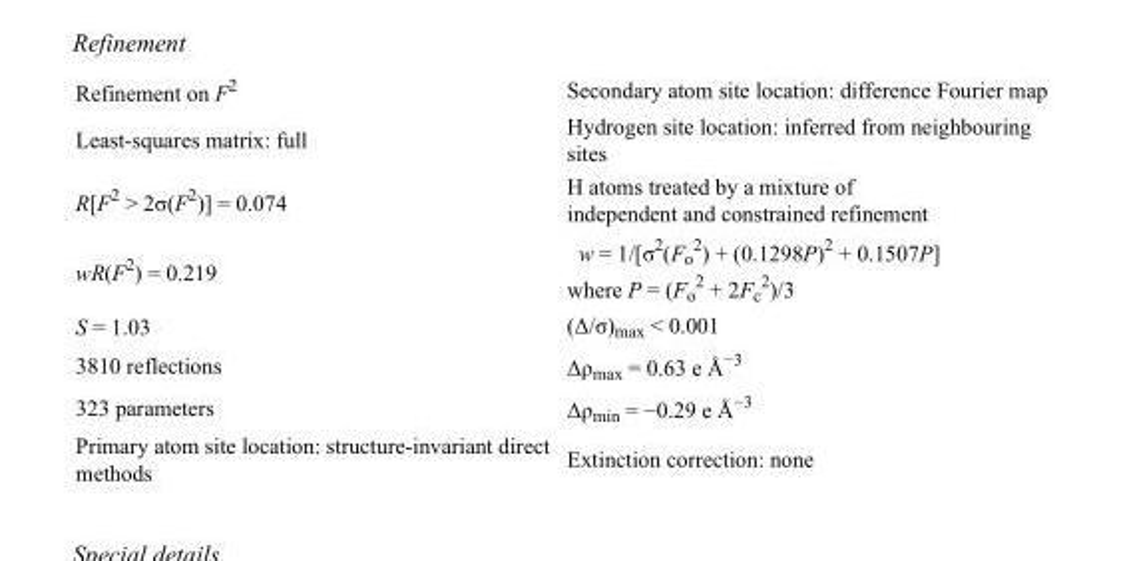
<table><tbody><tr><td>Refinement on F<sup>2</sup></td><td>Secondary atom site location: difference Fourier map</td></tr><tr><td>Least-squares matrix: full</td><td>Hydrogen site location: inferred from neighbouring sites</td></tr><tr><td>R[F<sup>2</sup> &gt; 2σ(F<sup>2</sup>)] = 0.074</td><td>H atoms treated by a mixture of independent and constrained refinement</td></tr><tr><td>wR(F<sup>2</sup>) = 0.219</td><td>w = 1/[σ<sup>2</sup>(F<sub>o</sub> <sup>2</sup>) + (0.1298P)<sup>2</sup> + 0.1507P] where P = (F<sub>o</sub> <sup>2</sup> + 2F<sub>c</sub> <sup>2</sup>)/3</td></tr><tr><td>S = 1.03</td><td>(Δ/σ)<sub>max</sub> &lt; 0.001</td></tr><tr><td>3810 reflections</td><td>Δρ<sub>max</sub> = 0.63 e Å<sup>−3</sup></td></tr><tr><td>323 parameters</td><td>Δρ<sub>min</sub> = −0.29 e Å<sup>−3</sup></td></tr><tr><td>Primary atom site location: structure-invariant direct methods</td><td>Extinction correction: none</td></tr></tbody></table>